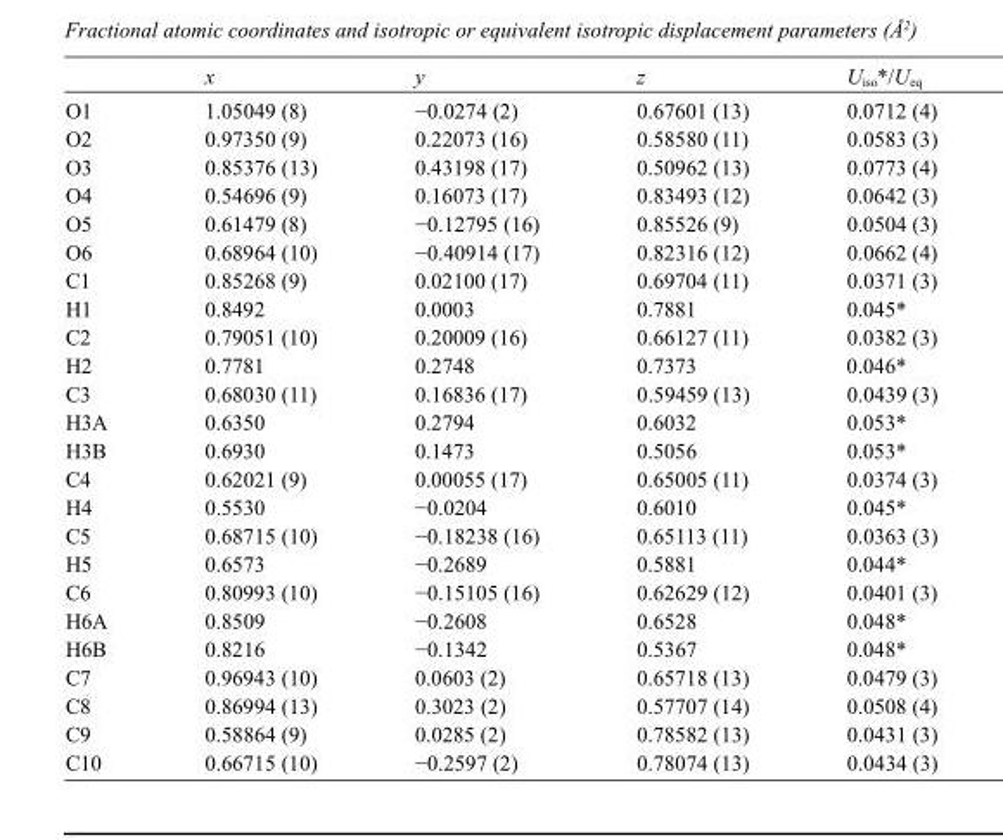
<table><thead><tr><td></td><td>x</td><td>y</td><td>z</td><td>U<sub>iso</sub>*/U<sub>eq</sub></td></tr></thead><tbody><tr><td>O1</td><td>1.05049 (8)</td><td>−0.0274 (2)</td><td>0.67601 (13)</td><td>0.0712 (4)</td></tr><tr><td>O2</td><td>0.97350 (9)</td><td>0.22073 (16)</td><td>0.58580 (11)</td><td>0.0583 (3)</td></tr><tr><td>O3</td><td>0.85376 (13)</td><td>0.43198 (17)</td><td>0.50962 (13)</td><td>0.0773 (4)</td></tr><tr><td>O4</td><td>0.54696 (9)</td><td>0.16073 (17)</td><td>0.83493 (12)</td><td>0.0642 (3)</td></tr><tr><td>O5</td><td>0.61479 (8)</td><td>−0.12795 (16)</td><td>0.85526 (9)</td><td>0.0504 (3)</td></tr><tr><td>O6</td><td>0.68964 (10)</td><td>−0.40914 (17)</td><td>0.82316 (12)</td><td>0.0662 (4)</td></tr><tr><td>C1</td><td>0.85268 (9)</td><td>0.02100 (17)</td><td>0.69704 (11)</td><td>0.0371 (3)</td></tr><tr><td>H1</td><td>0.8492</td><td>0.0003</td><td>0.7881</td><td>0.045*</td></tr><tr><td>C2</td><td>0.79051 (10)</td><td>0.20009 (16)</td><td>0.66127 (11)</td><td>0.0382 (3)</td></tr><tr><td>H2</td><td>0.7781</td><td>0.2748</td><td>0.7373</td><td>0.046*</td></tr><tr><td>C3</td><td>0.68030 (11)</td><td>0.16836 (17)</td><td>0.59459 (13)</td><td>0.0439 (3)</td></tr><tr><td>H3A</td><td>0.6350</td><td>0.2794</td><td>0.6032</td><td>0.053*</td></tr><tr><td>H3B</td><td>0.6930</td><td>0.1473</td><td>0.5056</td><td>0.053*</td></tr><tr><td>C4</td><td>0.62021 (9)</td><td>0.00055 (17)</td><td>0.65005 (11)</td><td>0.0374 (3)</td></tr><tr><td>H4</td><td>0.5530</td><td>−0.0204</td><td>0.6010</td><td>0.045*</td></tr><tr><td>C5</td><td>0.68715 (10)</td><td>−0.18238 (16)</td><td>0.65113 (11)</td><td>0.0363 (3)</td></tr><tr><td>H5</td><td>0.6573</td><td>−0.2689</td><td>0.5881</td><td>0.044*</td></tr><tr><td>C6</td><td>0.80993 (10)</td><td>−0.15105 (16)</td><td>0.62629 (12)</td><td>0.0401 (3)</td></tr><tr><td>H6A</td><td>0.8509</td><td>−0.2608</td><td>0.6528</td><td>0.048*</td></tr><tr><td>H6B</td><td>0.8216</td><td>−0.1342</td><td>0.5367</td><td>0.048*</td></tr><tr><td>C7</td><td>0.96943 (10)</td><td>0.0603 (2)</td><td>0.65718 (13)</td><td>0.0479 (3)</td></tr><tr><td>C8</td><td>0.86994 (13)</td><td>0.3023 (2)</td><td>0.57707 (14)</td><td>0.0508 (4)</td></tr><tr><td>C9</td><td>0.58864 (9)</td><td>0.0285 (2)</td><td>0.78582 (13)</td><td>0.0431 (3)</td></tr><tr><td>C10</td><td>0.66715 (10)</td><td>−0.2597 (2)</td><td>0.78074 (13)</td><td>0.0434 (3)</td></tr></tbody></table>